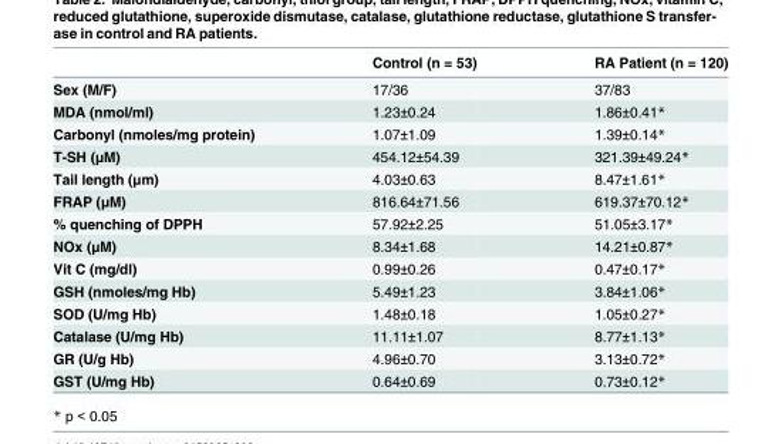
<table><thead><tr><td></td><td>Control (n = 53)</td><td>RA Patient (n = 120)</td></tr></thead><tbody><tr><td>Sex (M/F)</td><td>17/36</td><td>37/83</td></tr><tr><td>MDA (nmol/ml)</td><td>1.23±0.24</td><td>1.86±0.41*</td></tr><tr><td>Carbonyl (nmoles/mg protein)</td><td>1.07±1.09</td><td>1.39±0.14*</td></tr><tr><td>T-SH (μM)</td><td>454.12±54.39</td><td>321.39±49.24*</td></tr><tr><td>Tail length (μm)</td><td>4.03±0.63</td><td>8.47±1.61*</td></tr><tr><td>FRAP (μM)</td><td>816.64±71.56</td><td>619.37±70.12*</td></tr><tr><td>% quenching of DPPH</td><td>57.92±2.25</td><td>51.05±3.17*</td></tr><tr><td>NOx (μM)</td><td>8.34±1.68</td><td>14.21±0.87*</td></tr><tr><td>Vit C (mg/dl)</td><td>0.99±0.26</td><td>0.47±0.17*</td></tr><tr><td>GSH (nmoles/mg Hb)</td><td>5.49±1.23</td><td>3.84±1.06*</td></tr><tr><td>SOD (U/mg Hb)</td><td>1.48±0.18</td><td>1.05±0.27*</td></tr><tr><td>Catalase (U/mg Hb)</td><td>11.11±1.07</td><td>8.77±1.13*</td></tr><tr><td>GR (U/g Hb)</td><td>4.96±0.70</td><td>3.13±0.72*</td></tr><tr><td>GST (U/mg Hb)</td><td>0.64±0.69</td><td>0.73±0.12*</td></tr></tbody></table>